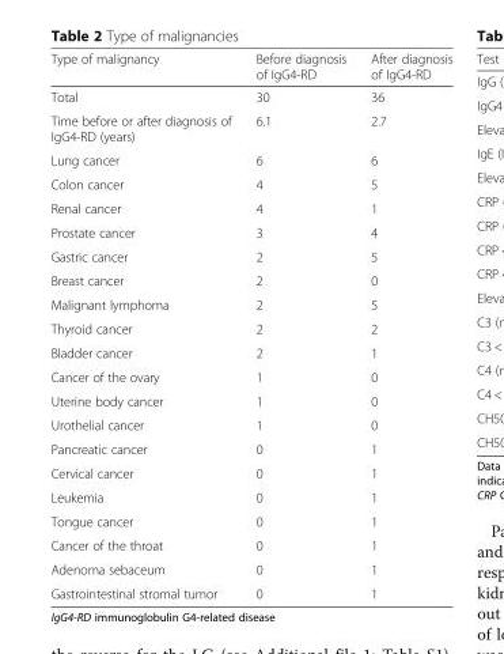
<table><thead><tr><td>Type of malignancy</td><td>Before diagnosis of IgG4-RD</td><td>After diagnosis of IgG4-RD</td></tr></thead><tbody><tr><td>Total</td><td>30</td><td>36</td></tr><tr><td>Time before or after diagnosis of IgG4-RD (years)</td><td>6.1</td><td>2.7</td></tr><tr><td>Lung cancer</td><td>6</td><td>6</td></tr><tr><td>Colon cancer</td><td>4</td><td>5</td></tr><tr><td>Renal cancer</td><td>4</td><td>1</td></tr><tr><td>Prostate cancer</td><td>3</td><td>4</td></tr><tr><td>Gastric cancer</td><td>2</td><td>5</td></tr><tr><td>Breast cancer</td><td>2</td><td>0</td></tr><tr><td>Malignant lymphoma</td><td>2</td><td>5</td></tr><tr><td>Thyroid cancer</td><td>2</td><td>2</td></tr><tr><td>Bladder cancer</td><td>2</td><td>1</td></tr><tr><td>Cancer of the ovary</td><td>1</td><td>0</td></tr><tr><td>Uterine body cancer</td><td>1</td><td>0</td></tr><tr><td>Urothelial cancer</td><td>1</td><td>0</td></tr><tr><td>Pancreatic cancer</td><td>0</td><td>1</td></tr><tr><td>Cervical cancer</td><td>0</td><td>1</td></tr><tr><td>Leukemia</td><td>0</td><td>1</td></tr><tr><td>Tongue cancer</td><td>0</td><td>1</td></tr><tr><td>Cancer of the throat</td><td>0</td><td>1</td></tr><tr><td>Adenoma sebaceum</td><td>0</td><td>1</td></tr><tr><td>Gastrointestinal stromal tumor</td><td>0</td><td>1</td></tr></tbody></table>